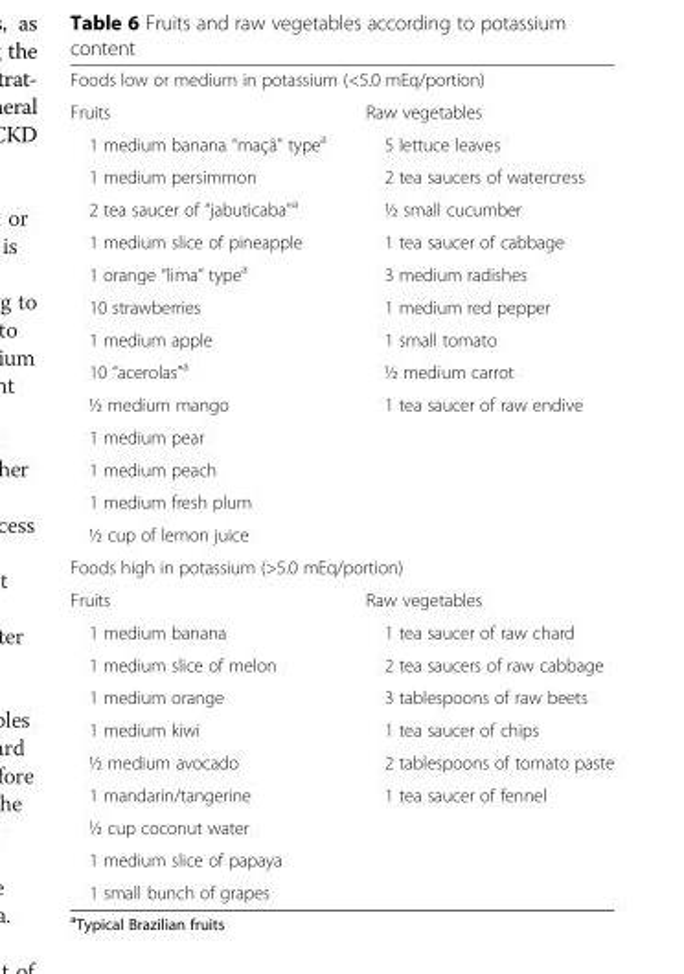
<table><tbody><tr><td colspan="2">Foods low or medium in potassium (&lt;5.0 mEq/portion)</td></tr><tr><td>Fruits</td><td>Raw vegetables</td></tr><tr><td>1 medium banana “maçã” type<sup>a</sup></td><td>5 lettuce leaves</td></tr><tr><td>1 medium persimmon</td><td>2 tea saucers of watercress</td></tr><tr><td>2 tea saucer of “jabuticaba”<sup>a</sup></td><td>½ small cucumber</td></tr><tr><td>1 medium slice of pineapple</td><td>1 tea saucer of cabbage</td></tr><tr><td>1 orange “lima” type<sup>a</sup></td><td>3 medium radishes</td></tr><tr><td>10 strawberries</td><td>1 medium red pepper</td></tr><tr><td>1 medium apple</td><td>1 small tomato</td></tr><tr><td>10 “acerolas”<sup>a</sup></td><td>½ medium carrot</td></tr><tr><td>½ medium mango</td><td>1 tea saucer of raw endive</td></tr><tr><td colspan="2">1 medium pear</td></tr><tr><td colspan="2">1 medium peach</td></tr><tr><td colspan="2">1 medium fresh plum</td></tr><tr><td colspan="2">½ cup of lemon juice</td></tr><tr><td colspan="2">Foods high in potassium (&gt;5.0 mEq/portion)</td></tr><tr><td>Fruits</td><td>Raw vegetables</td></tr><tr><td>1 medium banana</td><td>1 tea saucer of raw chard</td></tr><tr><td>1 medium slice of melon</td><td>2 tea saucers of raw cabbage</td></tr><tr><td>1 medium orange</td><td>3 tablespoons of raw beets</td></tr><tr><td>1 medium kiwi</td><td>1 tea saucer of chips</td></tr><tr><td>½ medium avocado</td><td>2 tablespoons of tomato paste</td></tr><tr><td>1 mandarin/tangerine</td><td>1 tea saucer of fennel</td></tr><tr><td colspan="2">½ cup coconut water</td></tr><tr><td colspan="2">1 medium slice of papaya</td></tr><tr><td>1 small bunch of grapes</td><td></td></tr></tbody></table>